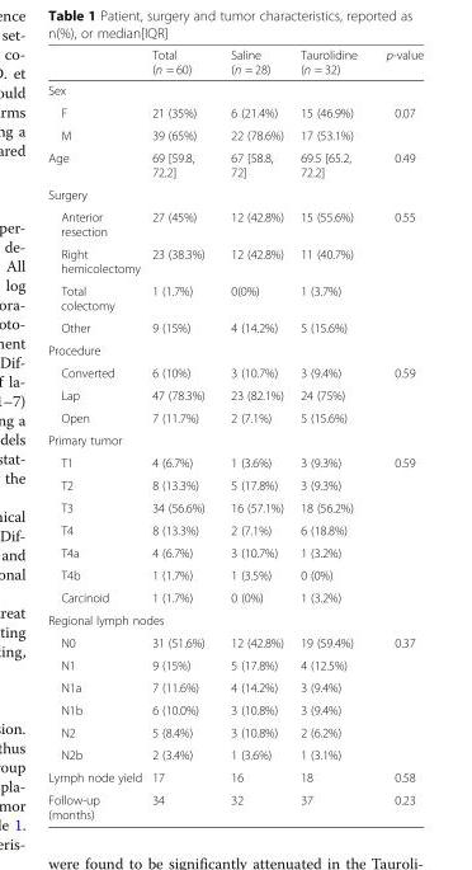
<table><thead><tr><td></td><td>Total (n = 60)</td><td>Saline (n = 28)</td><td>Taurolidine (n = 32)</td><td>p-value</td></tr></thead><tbody><tr><td colspan="5">Sex</td></tr><tr><td>F</td><td>21 (35%)</td><td>6 (21.4%)</td><td>15 (46.9%)</td><td rowspan="2">0.07</td></tr><tr><td>M</td><td>39 (65%)</td><td>22 (78.6%)</td><td>17 (53.1%)</td></tr><tr><td>Age</td><td>69 [59.8, 72.2]</td><td>67 [58.8, 72]</td><td>69.5 [65.2, 72.2]</td><td>0.49</td></tr><tr><td colspan="5">Surgery</td></tr><tr><td>Anterior resection</td><td>27 (45%)</td><td>12 (42.8%)</td><td>15 (55.6%)</td><td rowspan="4">0.55</td></tr><tr><td>Right hemicolectomy</td><td>23 (38.3%)</td><td>12 (42.8%)</td><td>11 (40.7%)</td></tr><tr><td>Total colectomy</td><td>1 (1.7%)</td><td>0(0%)</td><td>1 (3.7%)</td></tr><tr><td>Other</td><td>9 (15%)</td><td>4 (14.2%)</td><td>5 (15.6%)</td></tr><tr><td colspan="5">Procedure</td></tr><tr><td>Converted</td><td>6 (10%)</td><td>3 (10.7%)</td><td>3 (9.4%)</td><td rowspan="3">0.59</td></tr><tr><td>Lap</td><td>47 (78.3%)</td><td>23 (82.1%)</td><td>24 (75%)</td></tr><tr><td>Open</td><td>7 (11.7%)</td><td>2 (7.1%)</td><td>5 (15.6%)</td></tr><tr><td colspan="5">Primary tumor</td></tr><tr><td>T1</td><td>4 (6.7%)</td><td>1 (3.6%)</td><td>3 (9.3%)</td><td rowspan="7">0.59</td></tr><tr><td>T2</td><td>8 (13.3%)</td><td>5 (17.8%)</td><td>3 (9.3%)</td></tr><tr><td>T3</td><td>34 (56.6%)</td><td>16 (57.1%)</td><td>18 (56.2%)</td></tr><tr><td>T4</td><td>8 (13.3%)</td><td>2 (7.1%)</td><td>6 (18.8%)</td></tr><tr><td>T4a</td><td>4 (6.7%)</td><td>3 (10.7%)</td><td>1 (3.2%)</td></tr><tr><td>T4b</td><td>1 (1.7%)</td><td>1 (3.5%)</td><td>0 (0%)</td></tr><tr><td>Carcinoid</td><td>1 (1.7%)</td><td>0 (0%)</td><td>1 (3.2%)</td></tr><tr><td colspan="5">Regional lymph nodes</td></tr><tr><td>N0</td><td>31 (51.6%)</td><td>12 (42.8%)</td><td>19 (59.4%)</td><td rowspan="6">0.37</td></tr><tr><td>N1</td><td>9 (15%)</td><td>5 (17.8%)</td><td>4 (12.5%)</td></tr><tr><td>N1a</td><td>7 (11.6%)</td><td>4 (14.2%)</td><td>3 (9.4%)</td></tr><tr><td>N1b</td><td>6 (10.0%)</td><td>3 (10.8%)</td><td>3 (9.4%)</td></tr><tr><td>N2</td><td>5 (8.4%)</td><td>3 (10.8%)</td><td>2 (6.2%)</td></tr><tr><td>N2b</td><td>2 (3.4%)</td><td>1 (3.6%)</td><td>1 (3.1%)</td></tr><tr><td>Lymph node yield</td><td>17</td><td>16</td><td>18</td><td>0.58</td></tr><tr><td>Follow-up (months)</td><td>34</td><td>32</td><td>37</td><td>0.23</td></tr></tbody></table>